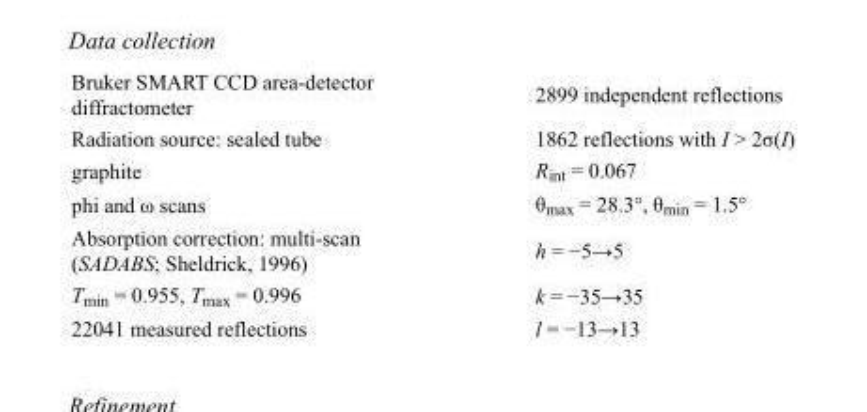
<table><tbody><tr><td>Bruker SMART CCD area-detector diffractometer</td><td>2899 independent reflections</td></tr><tr><td>Radiation source: sealed tube</td><td>1862 reflections with I &gt; 2σ(I)</td></tr><tr><td>graphite</td><td>R<sub>int</sub> = 0.067</td></tr><tr><td>phi and ω scans</td><td>θ<sub>max</sub> = 28.3°, θ<sub>min</sub> = 1.5°</td></tr><tr><td>Absorption correction: multi-scan (SADABS; Sheldrick, 1996)</td><td>h = −5→5</td></tr><tr><td>T<sub>min</sub> = 0.955, T<sub>max</sub> = 0.996</td><td>k = −35→35</td></tr><tr><td>22041 measured reflections</td><td>l = −13→13</td></tr></tbody></table>